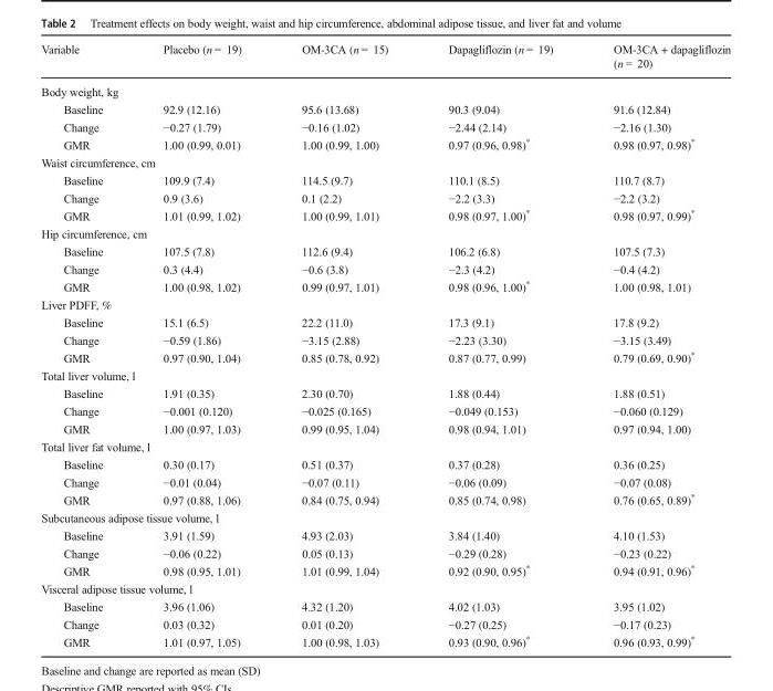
<table><thead><tr><td>Variable</td><td>Placebo (n = 19)</td><td>OM-3CA (n = 15)</td><td>Dapagliflozin (n = 19)</td><td>OM-3CA + dapagliflozin (n = 20)</td></tr></thead><tbody><tr><td colspan="5">Body weight, kg</td></tr><tr><td>Baseline</td><td>92.9 (12.16)</td><td>95.6 (13.68)</td><td>90.3 (9.04)</td><td>91.6 (12.84)</td></tr><tr><td>Change</td><td>−0.27 (1.79)</td><td>−0.16 (1.02)</td><td>−2.44 (2.14)</td><td>−2.16 (1.30)</td></tr><tr><td>GMR</td><td>1.00 (0.99, 0.01)</td><td>1.00 (0.99, 1.00)</td><td>0.97 (0.96, 0.98)*</td><td>0.98 (0.97, 0.98)*</td></tr><tr><td colspan="5">Waist circumference, cm</td></tr><tr><td>Baseline</td><td>109.9 (7.4)</td><td>114.5 (9.7)</td><td>110.1 (8.5)</td><td>110.7 (8.7)</td></tr><tr><td>Change</td><td>0.9 (3.6)</td><td>0.1 (2.2)</td><td>−2.2 (3.3)</td><td>−2.2 (3.2)</td></tr><tr><td>GMR</td><td>1.01 (0.99, 1.02)</td><td>1.00 (0.99, 1.01)</td><td>0.98 (0.97, 1.00)*</td><td>0.98 (0.97, 0.99)*</td></tr><tr><td colspan="5">Hip circumference, cm</td></tr><tr><td>Baseline</td><td>107.5 (7.8)</td><td>112.6 (9.4)</td><td>106.2 (6.8)</td><td>107.5 (7.3)</td></tr><tr><td>Change</td><td>0.3 (4.4)</td><td>−0.6 (3.8)</td><td>−2.3 (4.2)</td><td>−0.4 (4.2)</td></tr><tr><td>GMR</td><td>1.00 (0.98, 1.02)</td><td>0.99 (0.97, 1.01)</td><td>0.98 (0.96, 1.00)*</td><td>1.00 (0.98, 1.01)</td></tr><tr><td colspan="5">Liver PDFF, %</td></tr><tr><td>Baseline</td><td>15.1 (6.5)</td><td>22.2 (11.0)</td><td>17.3 (9.1)</td><td>17.8 (9.2)</td></tr><tr><td>Change</td><td>−0.59 (1.86)</td><td>−3.15 (2.88)</td><td>−2.23 (3.30)</td><td>−3.15 (3.49)</td></tr><tr><td>GMR</td><td>0.97 (0.90, 1.04)</td><td>0.85 (0.78, 0.92)</td><td>0.87 (0.77, 0.99)</td><td>0.79 (0.69, 0.90)*</td></tr><tr><td colspan="5">Total liver volume, l</td></tr><tr><td>Baseline</td><td>1.91 (0.35)</td><td>2.30 (0.70)</td><td>1.88 (0.44)</td><td>1.88 (0.51)</td></tr><tr><td>Change</td><td>−0.001 (0.120)</td><td>−0.025 (0.165)</td><td>−0.049 (0.153)</td><td>−0.060 (0.129)</td></tr><tr><td>GMR</td><td>1.00 (0.97, 1.03)</td><td>0.99 (0.95, 1.04)</td><td>0.98 (0.94, 1.01)</td><td>0.97 (0.94, 1.00)</td></tr><tr><td colspan="5">Total liver fat volume, l</td></tr><tr><td>Baseline</td><td>0.30 (0.17)</td><td>0.51 (0.37)</td><td>0.37 (0.28)</td><td>0.36 (0.25)</td></tr><tr><td>Change</td><td>−0.01 (0.04)</td><td>−0.07 (0.11)</td><td>−0.06 (0.09)</td><td>−0.07 (0.08)</td></tr><tr><td>GMR</td><td>0.97 (0.88, 1.06)</td><td>0.84 (0.75, 0.94)</td><td>0.85 (0.74, 0.98)</td><td>0.76 (0.65, 0.89)*</td></tr><tr><td colspan="5">Subcutaneous adipose tissue volume, l</td></tr><tr><td>Baseline</td><td>3.91 (1.59)</td><td>4.93 (2.03)</td><td>3.84 (1.40)</td><td>4.10 (1.53)</td></tr><tr><td>Change</td><td>−0.06 (0.22)</td><td>0.05 (0.13)</td><td>−0.29 (0.28)</td><td>−0.23 (0.22)</td></tr><tr><td>GMR</td><td>0.98 (0.95, 1.01)</td><td>1.01 (0.99, 1.04)</td><td>0.92 (0.90, 0.95)*</td><td>0.94 (0.91, 0.96)*</td></tr><tr><td colspan="5">Visceral adipose tissue volume, l</td></tr><tr><td>Baseline</td><td>3.96 (1.06)</td><td>4.32 (1.20)</td><td>4.02 (1.03)</td><td>3.95 (1.02)</td></tr><tr><td>Change</td><td>0.03 (0.32)</td><td>0.01 (0.20)</td><td>−0.27 (0.25)</td><td>−0.17 (0.23)</td></tr><tr><td>GMR</td><td>1.01 (0.97, 1.05)</td><td>1.00 (0.98, 1.03)</td><td>0.93 (0.90, 0.96)*</td><td>0.96 (0.93, 0.99)*</td></tr></tbody></table>